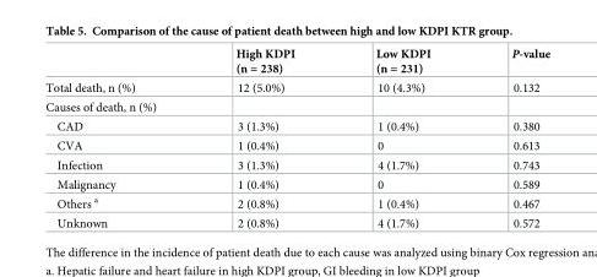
<table><thead><tr><td></td><td>High KDPI (n = 238)</td><td>Low KDPI (n = 231)</td><td>P-value</td></tr></thead><tbody><tr><td>Total death, n (%)</td><td>12 (5.0%)</td><td>10 (4.3%)</td><td>0.132</td></tr><tr><td colspan="4">Causes of death, n (%)</td></tr><tr><td>CAD</td><td>3 (1.3%)</td><td>1 (0.4%)</td><td>0.380</td></tr><tr><td>CVA</td><td>1 (0.4%)</td><td>0</td><td>0.613</td></tr><tr><td>Infection</td><td>3 (1.3%)</td><td>4 (1.7%)</td><td>0.743</td></tr><tr><td>Malignancy</td><td>1 (0.4%)</td><td>0</td><td>0.589</td></tr><tr><td>Others <sup>a</sup></td><td>2 (0.8%)</td><td>1 (0.4%)</td><td>0.467</td></tr><tr><td>Unknown</td><td>2 (0.8%)</td><td>4 (1.7%)</td><td>0.572</td></tr></tbody></table>